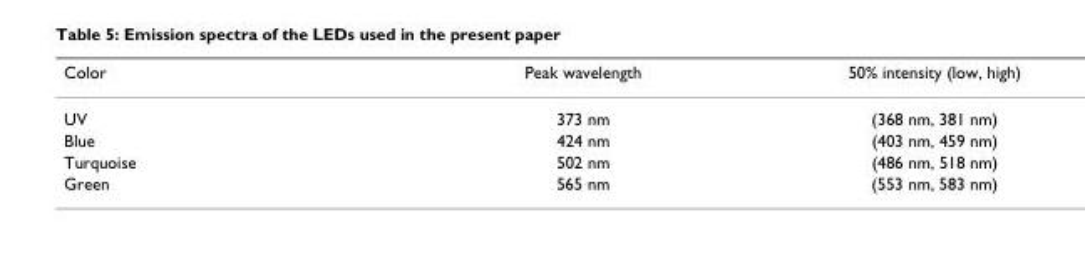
<table><thead><tr><td>Color</td><td>Peak wavelength</td><td>50% intensity (low, high)</td></tr></thead><tbody><tr><td>UV</td><td>373 nm</td><td>(368 nm, 381 nm)</td></tr><tr><td>Blue</td><td>424 nm</td><td>(403 nm, 459 nm)</td></tr><tr><td>Turquoise</td><td>502 nm</td><td>(486 nm, 518 nm)</td></tr><tr><td>Green</td><td>565 nm</td><td>(553 nm, 583 nm)</td></tr></tbody></table>